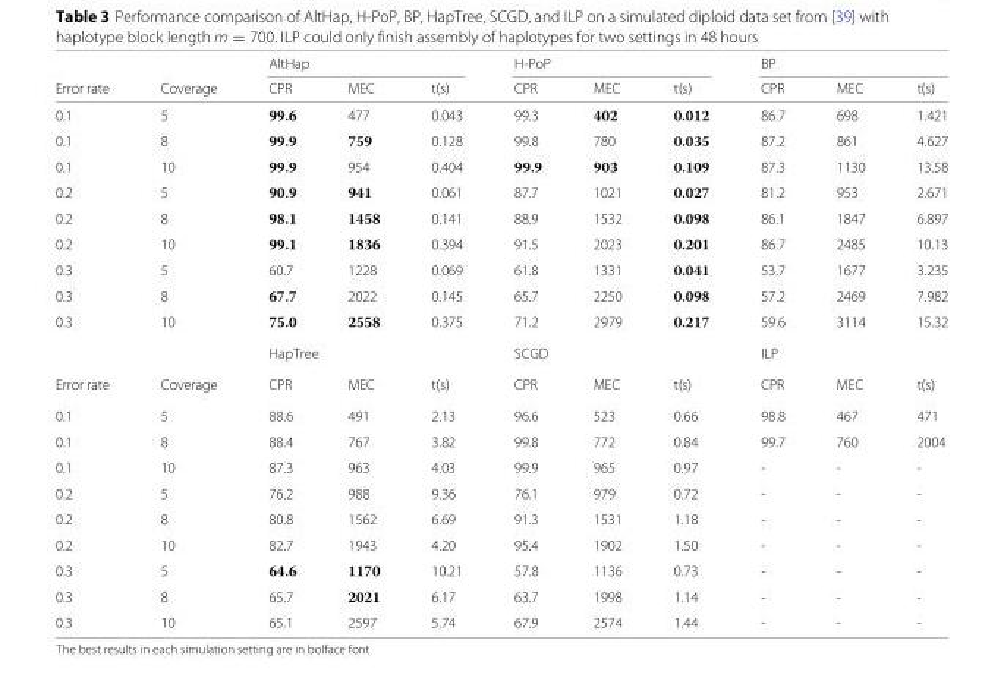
<table><thead><tr><td rowspan="2">Error rate</td><td rowspan="2">Coverage</td><td colspan="3">AltHap</td><td colspan="3">H-PoP</td><td colspan="3">BP</td></tr><tr><td>CPR</td><td>MEC</td><td>t(s)</td><td>CPR</td><td>MEC</td><td>t(s)</td><td>CPR</td><td>MEC</td><td>t(s)</td></tr></thead><tbody><tr><td>0.1</td><td>5</td><td>99.6</td><td>477</td><td>0.043</td><td>99.3</td><td>402</td><td>0.012</td><td>86.7</td><td>698</td><td>1.421</td></tr><tr><td>0.1</td><td>8</td><td>99.9</td><td>759</td><td>0.128</td><td>99.8</td><td>780</td><td>0.035</td><td>87.2</td><td>861</td><td>4.627</td></tr><tr><td>0.1</td><td>10</td><td>99.9</td><td>954</td><td>0.404</td><td>99.9</td><td>903</td><td>0.109</td><td>87.3</td><td>1130</td><td>13.58</td></tr><tr><td>0.2</td><td>5</td><td>90.9</td><td>941</td><td>0.061</td><td>87.7</td><td>1021</td><td>0.027</td><td>81.2</td><td>953</td><td>2.671</td></tr><tr><td>0.2</td><td>8</td><td>98.1</td><td>1458</td><td>0.141</td><td>88.9</td><td>1532</td><td>0.098</td><td>86.1</td><td>1847</td><td>6.897</td></tr><tr><td>0.2</td><td>10</td><td>99.1</td><td>1836</td><td>0.394</td><td>91.5</td><td>2023</td><td>0.201</td><td>86.7</td><td>2485</td><td>10.13</td></tr><tr><td>0.3</td><td>5</td><td>60.7</td><td>1228</td><td>0.069</td><td>61.8</td><td>1331</td><td>0.041</td><td>53.7</td><td>1677</td><td>3.235</td></tr><tr><td>0.3</td><td>8</td><td>67.7</td><td>2022</td><td>0.145</td><td>65.7</td><td>2250</td><td>0.098</td><td>57.2</td><td>2469</td><td>7.982</td></tr><tr><td rowspan="2">0.3</td><td>10</td><td>75.0</td><td>2558</td><td>0.375</td><td>71.2</td><td>2979</td><td>0.217</td><td>59.6</td><td>3114</td><td>15.32</td></tr><tr><td></td><td colspan="3">HapTree</td><td colspan="3">SCGD</td><td colspan="3">ILP</td></tr><tr><td>Error rate</td><td>Coverage</td><td>CPR</td><td>MEC</td><td>t(s)</td><td>CPR</td><td>MEC</td><td>t(s)</td><td>CPR</td><td>MEC</td><td>t(s)</td></tr><tr><td>0.1</td><td>5</td><td>88.6</td><td>491</td><td>2.13</td><td>96.6</td><td>523</td><td>0.66</td><td>98.8</td><td>467</td><td>471</td></tr><tr><td>0.1</td><td>8</td><td>88.4</td><td>767</td><td>3.82</td><td>99.8</td><td>772</td><td>0.84</td><td>99.7</td><td>760</td><td>2004</td></tr><tr><td>0.1</td><td>10</td><td>87.3</td><td>963</td><td>4.03</td><td>99.9</td><td>965</td><td>0.97</td><td>-</td><td>-</td><td>-</td></tr><tr><td>0.2</td><td>5</td><td>76.2</td><td>988</td><td>9.36</td><td>76.1</td><td>979</td><td>0.72</td><td>-</td><td>-</td><td>-</td></tr><tr><td>0.2</td><td>8</td><td>80.8</td><td>1562</td><td>6.69</td><td>91.3</td><td>1531</td><td>1.18</td><td>-</td><td>-</td><td>-</td></tr><tr><td>0.2</td><td>10</td><td>82.7</td><td>1943</td><td>4.20</td><td>95.4</td><td>1902</td><td>1.50</td><td>-</td><td>-</td><td>-</td></tr><tr><td>0.3</td><td>5</td><td>64.6</td><td>1170</td><td>10.21</td><td>57.8</td><td>1136</td><td>0.73</td><td>-</td><td>-</td><td>-</td></tr><tr><td>0.3</td><td>8</td><td>65.7</td><td>2021</td><td>6.17</td><td>63.7</td><td>1998</td><td>1.14</td><td>-</td><td>-</td><td>-</td></tr><tr><td>0.3</td><td>10</td><td>65.1</td><td>2597</td><td>5.74</td><td>67.9</td><td>2574</td><td>1.44</td><td>-</td><td>-</td><td>-</td></tr></tbody></table>